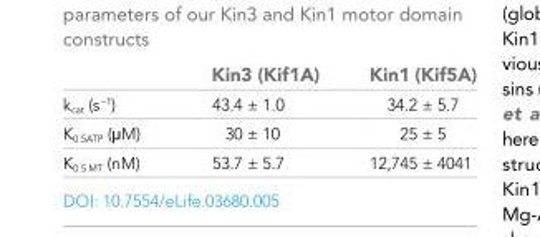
<table><thead><tr><td></td><td>Kin3 (Kif1A)</td><td>Kin1 (Kif5A)</td></tr></thead><tbody><tr><td>k<sub>cat</sub> (s<sup>−1</sup>)</td><td>43.4 ± 1.0</td><td>34.2 ± 5.7</td></tr><tr><td>K<sub>0.5ATP</sub> (μM)</td><td>30 ± 10</td><td>25 ± 5</td></tr><tr><td>K<sub>0.5 MT</sub> (nM)</td><td>53.7 ± 5.7</td><td>12,745 ± 4041</td></tr></tbody></table>